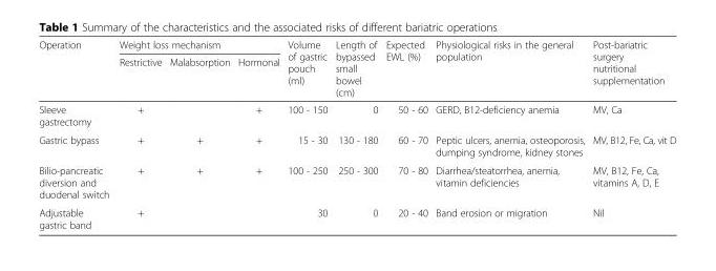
<table><thead><tr><td rowspan="2">Operation</td><td colspan="3">Weight loss mechanism</td><td rowspan="2">Volume of gastric pouch (ml)</td><td rowspan="2">Length of bypassed small bowel (cm)</td><td rowspan="2">Expected EWL (%)</td><td rowspan="2">Physiological risks in the general population</td><td rowspan="2">Post-bariatric surgery nutritional supplementation</td></tr><tr><td>Restrictive</td><td>Malabsorption</td><td>Hormonal</td></tr></thead><tbody><tr><td>Sleeve gastrectomy</td><td>+</td><td></td><td>+</td><td>100 - 150</td><td>0</td><td>50 - 60</td><td>GERD, B12-deficiency anemia</td><td>MV, Ca</td></tr><tr><td>Gastric bypass</td><td>+</td><td>+</td><td>+</td><td>15 - 30</td><td>130 - 180</td><td>60 - 70</td><td>Peptic ulcers, anemia, osteoporosis, dumping syndrome, kidney stones</td><td>MV, B12, Fe, Ca, vit D</td></tr><tr><td>Bilio-pancreatic diversion and duodenal switch</td><td>+</td><td>+</td><td>+</td><td>100 - 250</td><td>250 - 300</td><td>70 - 80</td><td>Diarrhea/steatorrhea, anemia, vitamin deficiencies</td><td>MV, B12, Fe, Ca, vitamins A, D, E</td></tr><tr><td>Adjustable gastric band</td><td>+</td><td></td><td></td><td>30</td><td>0</td><td>20 - 40</td><td>Band erosion or migration</td><td>Nil</td></tr></tbody></table>